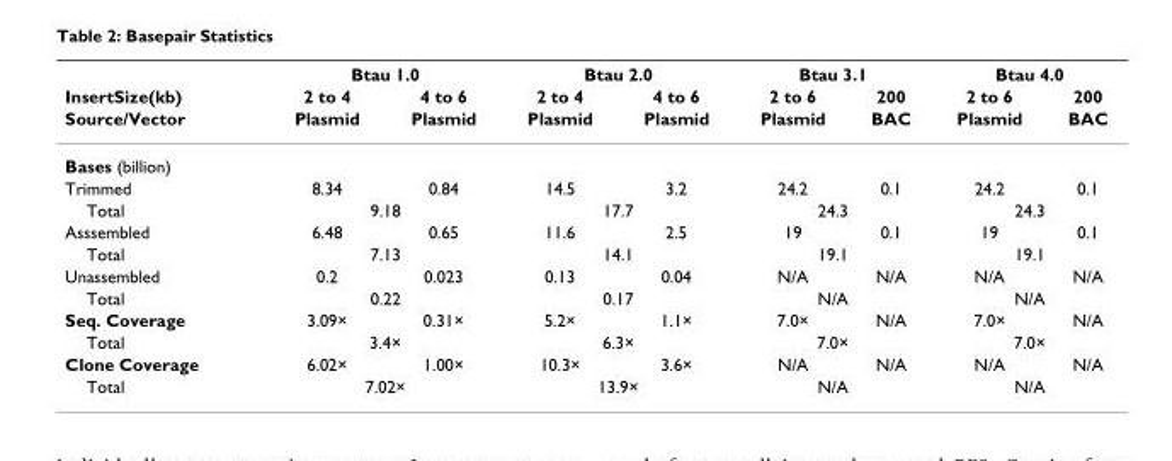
<table><thead><tr><td rowspan="3">InsertSize(kb) Source/Vector</td><td colspan="2">Btau 1.0</td><td colspan="2">Btau 2.0</td><td colspan="2">Btau 3.1</td><td colspan="2">Btau 4.0</td></tr><tr><td rowspan="2">2 to 4 Plasmid</td><td rowspan="2">4 to 6 Plasmid</td><td rowspan="2">2 to 4 Plasmid</td><td rowspan="2">4 to 6 Plasmid</td><td rowspan="2">2 to 6 Plasmid</td><td rowspan="2">200 BAC</td><td rowspan="2">2 to 6 Plasmid</td><td rowspan="2">200 BAC</td></tr><tr></tr></thead><tbody><tr><td colspan="9">Bases (billion)</td></tr><tr><td>Trimmed</td><td>8.34</td><td>0.84</td><td>14.5</td><td>3.2</td><td>24.2</td><td>0.1</td><td>24.2</td><td>0.1</td></tr><tr><td>Total</td><td colspan="2">9.18</td><td colspan="2">17.7</td><td colspan="2">24.3</td><td colspan="2">24.3</td></tr><tr><td>Asssembled</td><td>6.48</td><td>0.65</td><td>11.6</td><td>2.5</td><td>19</td><td>0.1</td><td>19</td><td>0.1</td></tr><tr><td>Total</td><td colspan="2">7.13</td><td colspan="2">14.1</td><td colspan="2">19.1</td><td colspan="2">19.1</td></tr><tr><td>Unassembled</td><td>0.2</td><td>0.023</td><td>0.13</td><td>0.04</td><td>N/A</td><td>N/A</td><td>N/A</td><td>N/A</td></tr><tr><td>Total</td><td colspan="2">0.22</td><td colspan="2">0.17</td><td colspan="2">N/A</td><td colspan="2">N/A</td></tr><tr><td>Seq. Coverage</td><td>3.09×</td><td>0.31×</td><td>5.2×</td><td>1.1×</td><td>7.0×</td><td>N/A</td><td>7.0×</td><td>N/A</td></tr><tr><td>Total</td><td colspan="2">3.4×</td><td colspan="2">6.3×</td><td colspan="2">7.0×</td><td colspan="2">7.0×</td></tr><tr><td>Clone Coverage</td><td>6.02×</td><td>1.00×</td><td>10.3×</td><td>3.6×</td><td>N/A</td><td>N/A</td><td>N/A</td><td>N/A</td></tr><tr><td>Total</td><td colspan="2">7.02×</td><td colspan="2">13.9×</td><td colspan="2">N/A</td><td colspan="2">N/A</td></tr></tbody></table>